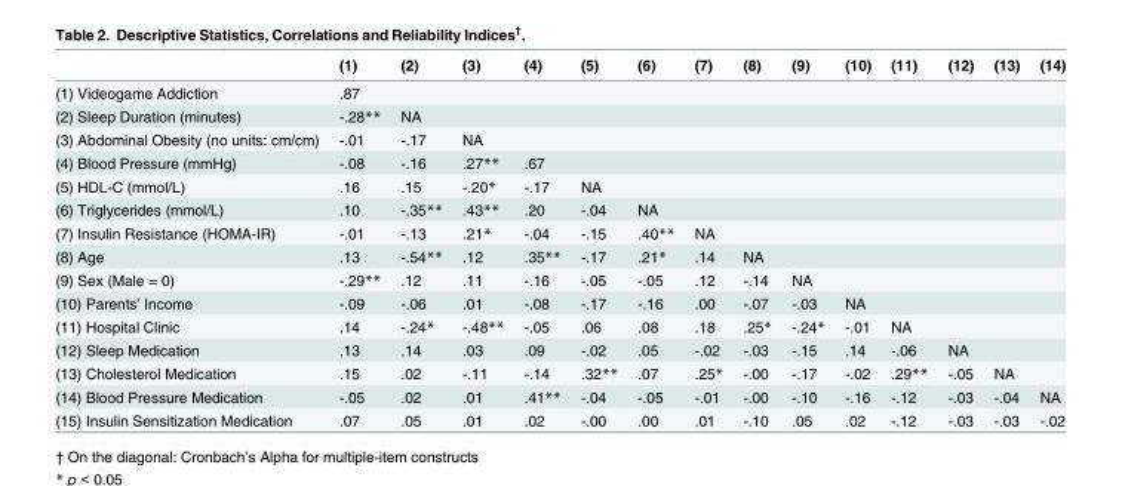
<table><thead><tr><td></td><td>(1)</td><td>(2)</td><td>(3)</td><td>(4)</td><td>(5)</td><td>(6)</td><td>(7)</td><td>(8)</td><td>(9)</td><td>(10)</td><td>(11)</td><td>(12)</td><td>(13)</td><td>(14)</td></tr></thead><tbody><tr><td>(1) Videogame Addiction</td><td colspan="14">.87</td></tr><tr><td>(2) Sleep Duration (minutes)</td><td>-.28**</td><td colspan="13">NA</td></tr><tr><td>(3) Abdominal Obesity (no units: cm/cm)</td><td>-.01</td><td>-.17</td><td colspan="12">NA</td></tr><tr><td>(4) Blood Pressure (mmHg)</td><td>-.08</td><td>-.16</td><td>.27**</td><td colspan="11">.67</td></tr><tr><td>(5) HDL-C (mmol/L)</td><td>.16</td><td>.15</td><td>-.20*</td><td>-.17</td><td colspan="10">NA</td></tr><tr><td>(6) Triglycerides (mmol/L)</td><td>.10</td><td>-.35**</td><td>.43**</td><td>.20</td><td>-.04</td><td colspan="9">NA</td></tr><tr><td>(7) Insulin Resistance (HOMA-IR)</td><td>-.01</td><td>-.13</td><td>.21*</td><td>-.04</td><td>-.15</td><td>.40**</td><td colspan="8">NA</td></tr><tr><td>(8) Age</td><td>.13</td><td>-.54**</td><td>.12</td><td>.35**</td><td>-.17</td><td>.21*</td><td>.14</td><td colspan="7">NA</td></tr><tr><td>(9) Sex (Male = 0)</td><td>-.29**</td><td>.12</td><td>.11</td><td>-.16</td><td>-.05</td><td>-.05</td><td>.12</td><td>-.14</td><td colspan="6">NA</td></tr><tr><td>(10) Parents’ Income</td><td>-.09</td><td>-.06</td><td>.01</td><td>-.08</td><td>-.17</td><td>-.16</td><td>.00</td><td>-.07</td><td>-.03</td><td colspan="5">NA</td></tr><tr><td>(11) Hospital Clinic</td><td>.14</td><td>-.24*</td><td>-.48**</td><td>-.05</td><td>.06</td><td>.08</td><td>.18</td><td>.25*</td><td>-.24*</td><td>-.01</td><td colspan="4">NA</td></tr><tr><td>(12) Sleep Medication</td><td>.13</td><td>.14</td><td>.03</td><td>.09</td><td>-.02</td><td>.05</td><td>-.02</td><td>-.03</td><td>-.15</td><td>.14</td><td>-.06</td><td colspan="3">NA</td></tr><tr><td>(13) Cholesterol Medication</td><td>.15</td><td>.02</td><td>-.11</td><td>-.14</td><td>.32**</td><td>.07</td><td>.25*</td><td>-.00</td><td>-.17</td><td>-.02</td><td>.29**</td><td>-.05</td><td colspan="2">NA</td></tr><tr><td>(14) Blood Pressure Medication</td><td>-.05</td><td>.02</td><td>.01</td><td>.41**</td><td>-.04</td><td>-.05</td><td>-.01</td><td>-.00</td><td>-.10</td><td>-.16</td><td>-.12</td><td>-.03</td><td>-.04</td><td>NA</td></tr><tr><td>(15) Insulin Sensitization Medication</td><td>.07</td><td>.05</td><td>.01</td><td>.02</td><td>-.00</td><td>.00</td><td>.01</td><td>-.10</td><td>.05</td><td>.02</td><td>-.12</td><td>-.03</td><td>-.03</td><td>-.02</td></tr></tbody></table>